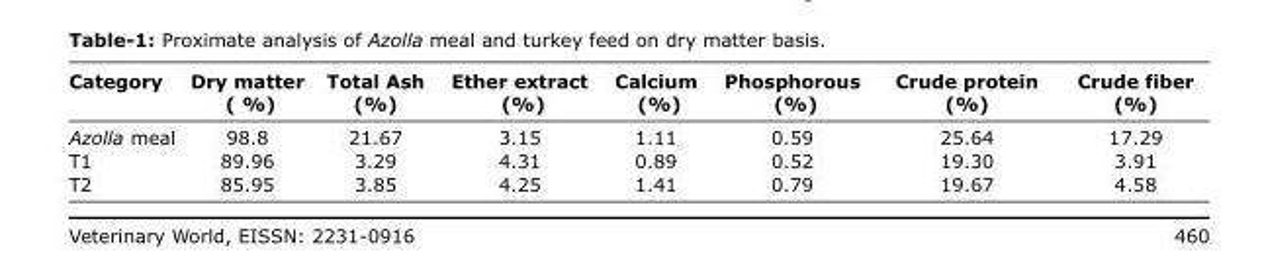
<table><thead><tr><td>Category</td><td>Dry matter ( %)</td><td>Total Ash (%)</td><td>Ether extract (%)</td><td>Calcium (%)</td><td>Phosphorous (%)</td><td>Crude protein (%)</td><td>Crude fiber (%)</td></tr></thead><tbody><tr><td>Azolla meal</td><td>98.8</td><td>21.67</td><td>3.15</td><td>1.11</td><td>0.59</td><td>25.64</td><td>17.29</td></tr><tr><td>T1</td><td>89.96</td><td>3.29</td><td>4.31</td><td>0.89</td><td>0.52</td><td>19.30</td><td>3.91</td></tr><tr><td>T2</td><td>85.95</td><td>3.85</td><td>4.25</td><td>1.41</td><td>0.79</td><td>19.67</td><td>4.58</td></tr></tbody></table>